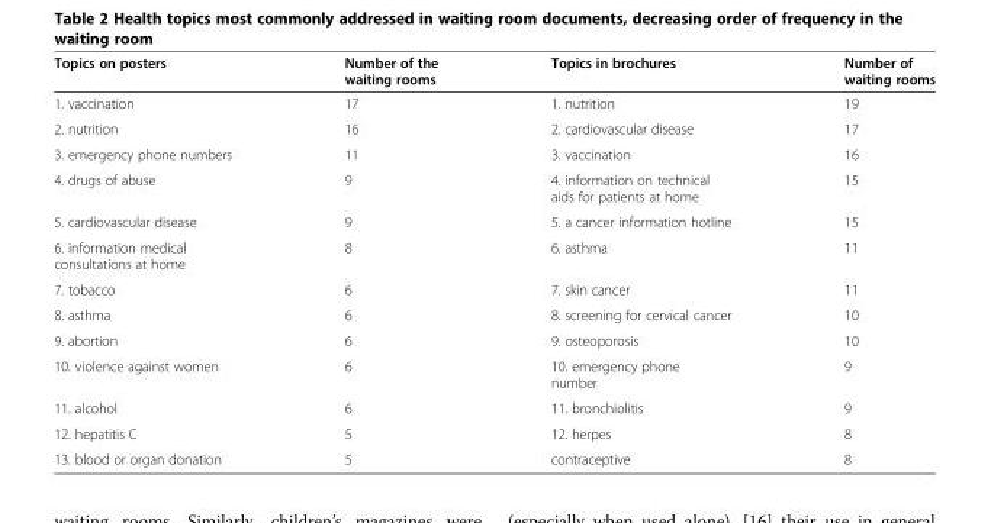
<table><thead><tr><td>Topics on posters</td><td>Number of the waiting rooms</td><td>Topics in brochures</td><td>Number of waiting rooms</td></tr></thead><tbody><tr><td>1. vaccination</td><td>17</td><td>1. nutrition</td><td>19</td></tr><tr><td>2. nutrition</td><td>16</td><td>2. cardiovascular disease</td><td>17</td></tr><tr><td>3. emergency phone numbers</td><td>11</td><td>3. vaccination</td><td>16</td></tr><tr><td>4. drugs of abuse</td><td>9</td><td>4. information on technical aids for patients at home</td><td>15</td></tr><tr><td>5. cardiovascular disease</td><td>9</td><td>5. a cancer information hotline</td><td>15</td></tr><tr><td>6. information medical consultations at home</td><td>8</td><td>6. asthma</td><td>11</td></tr><tr><td>7. tobacco</td><td>6</td><td>7. skin cancer</td><td>11</td></tr><tr><td>8. asthma</td><td>6</td><td>8. screening for cervical cancer</td><td>10</td></tr><tr><td>9. abortion</td><td>6</td><td>9. osteoporosis</td><td>10</td></tr><tr><td>10. violence against women</td><td>6</td><td>10. emergency phone number</td><td>9</td></tr><tr><td>11. alcohol</td><td>6</td><td>11. bronchiolitis</td><td>9</td></tr><tr><td>12. hepatitis C</td><td>5</td><td>12. herpes</td><td>8</td></tr><tr><td>13. blood or organ donation</td><td>5</td><td>contraceptive</td><td>8</td></tr></tbody></table>